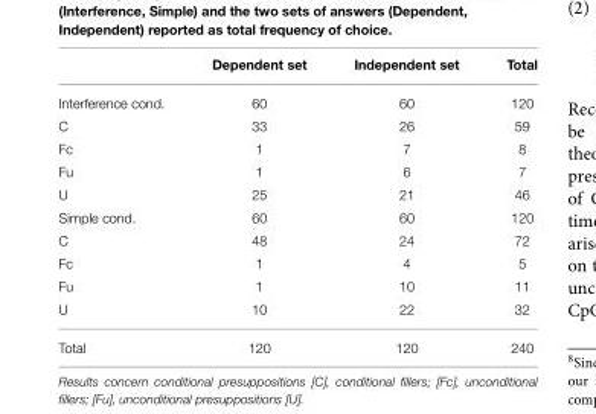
<table><thead><tr><td></td><td>Dependent set</td><td>Independent set</td><td>Total</td></tr></thead><tbody><tr><td>Interference cond.</td><td>60</td><td>60</td><td>120</td></tr><tr><td>C</td><td>33</td><td>26</td><td>59</td></tr><tr><td>Fc</td><td>1</td><td>7</td><td>8</td></tr><tr><td>Fu</td><td>1</td><td>6</td><td>7</td></tr><tr><td>U</td><td>25</td><td>21</td><td>46</td></tr><tr><td>Simple cond.</td><td>60</td><td>60</td><td>120</td></tr><tr><td>C</td><td>48</td><td>24</td><td>72</td></tr><tr><td>Fc</td><td>1</td><td>4</td><td>5</td></tr><tr><td>Fu</td><td>1</td><td>10</td><td>11</td></tr><tr><td>U</td><td>10</td><td>22</td><td>32</td></tr><tr><td>Total</td><td>120</td><td>120</td><td>240</td></tr></tbody></table>